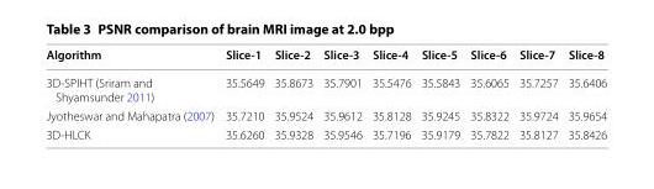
<table><thead><tr><td>Algorithm</td><td>Slice‑1</td><td>Slice‑2</td><td>Slice‑3</td><td>Slice‑4</td><td>Slice‑5</td><td>Slice‑6</td><td>Slice‑7</td><td>Slice‑8</td></tr></thead><tbody><tr><td>3D-SPIHT (Sriram and Shyamsunder 2011)</td><td>35.5649</td><td>35.8673</td><td>35.7901</td><td>35.5476</td><td>35.5843</td><td>35.6065</td><td>35.7257</td><td>35.6406</td></tr><tr><td>Jyotheswar and Mahapatra (2007)</td><td>35.7210</td><td>35.9524</td><td>35.9612</td><td>35.8128</td><td>35.9245</td><td>35.8322</td><td>35.9724</td><td>35.9654</td></tr><tr><td>3D-HLCK</td><td>35.6260</td><td>35.9328</td><td>35.9546</td><td>35.7196</td><td>35.9179</td><td>35.7822</td><td>35.8127</td><td>35.8426</td></tr></tbody></table>